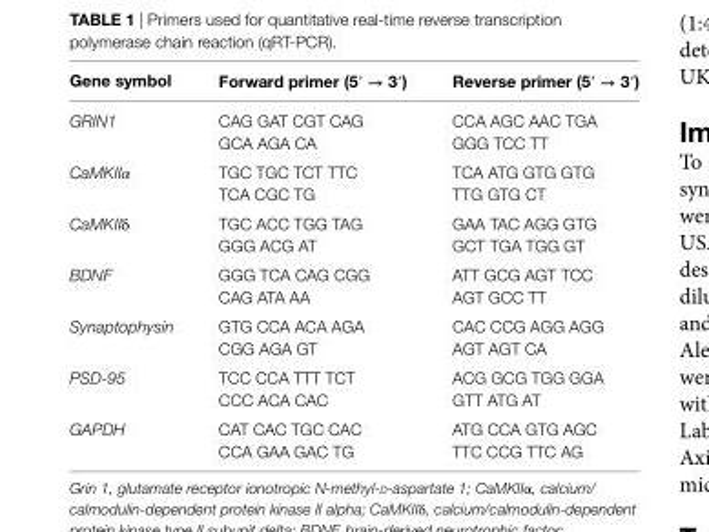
<table><thead><tr><td>gene symbol</td><td>Forward primer (5′ → 3′)</td><td>reverse primer (5′ → 3′)</td></tr></thead><tbody><tr><td>GRIN1</td><td>CAG GAT CGT CAG GCA AGA CA</td><td>CCA AGC AAC TGA GGG TCC TT</td></tr><tr><td>CaMKIIα</td><td>TGC TGC TCT TTC TCA CGC TG</td><td>TCA ATG GTG GTG TTG GTG CT</td></tr><tr><td>CaMKIIδ</td><td>TGC ACC TGG TAG GGG ACG AT</td><td>GAA TAC AGG GTG GCT TGA TGG GT</td></tr><tr><td>BDNF</td><td>GGG TCA CAG CGG CAG ATA AA</td><td>ATT GCG AGT TCC AGT GCC TT</td></tr><tr><td>Synaptophysin</td><td>GTG CCA ACA AGA CGG AGA GT</td><td>CAC CCG AGG AGG AGT AGT CA</td></tr><tr><td>PSD-95</td><td>TCC CCA TTT TCT CCC ACA CAC</td><td>ACG GCG TGG GGA GTT ATG AT</td></tr><tr><td>GAPDH</td><td>CAT CAC TGC CAC CCA GAA GAC TG</td><td>ATG CCA GTG AGC TTC CCG TTC AG</td></tr></tbody></table>